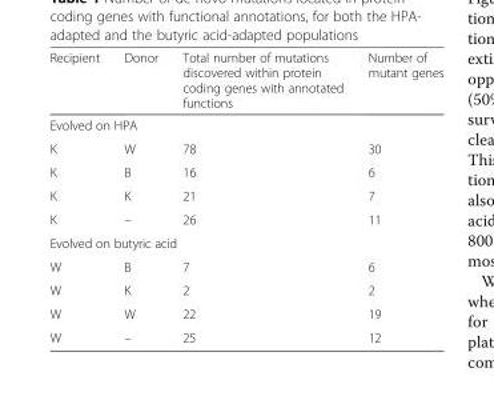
<table><thead><tr><td>Recipient</td><td>Donor</td><td>Total number of mutations discovered within protein coding genes with annotated functions</td><td>Number of mutant genes</td></tr></thead><tbody><tr><td colspan="4">Evolved on HPA</td></tr><tr><td>K</td><td>W</td><td>78</td><td>30</td></tr><tr><td>K</td><td>B</td><td>16</td><td>6</td></tr><tr><td>K</td><td>K</td><td>21</td><td>7</td></tr><tr><td>K</td><td>–</td><td>26</td><td>11</td></tr><tr><td colspan="4">Evolved on butyric acid</td></tr><tr><td>W</td><td>B</td><td>7</td><td>6</td></tr><tr><td>W</td><td>K</td><td>2</td><td>2</td></tr><tr><td>W</td><td>W</td><td>22</td><td>19</td></tr><tr><td>W</td><td>–</td><td>25</td><td>12</td></tr></tbody></table>